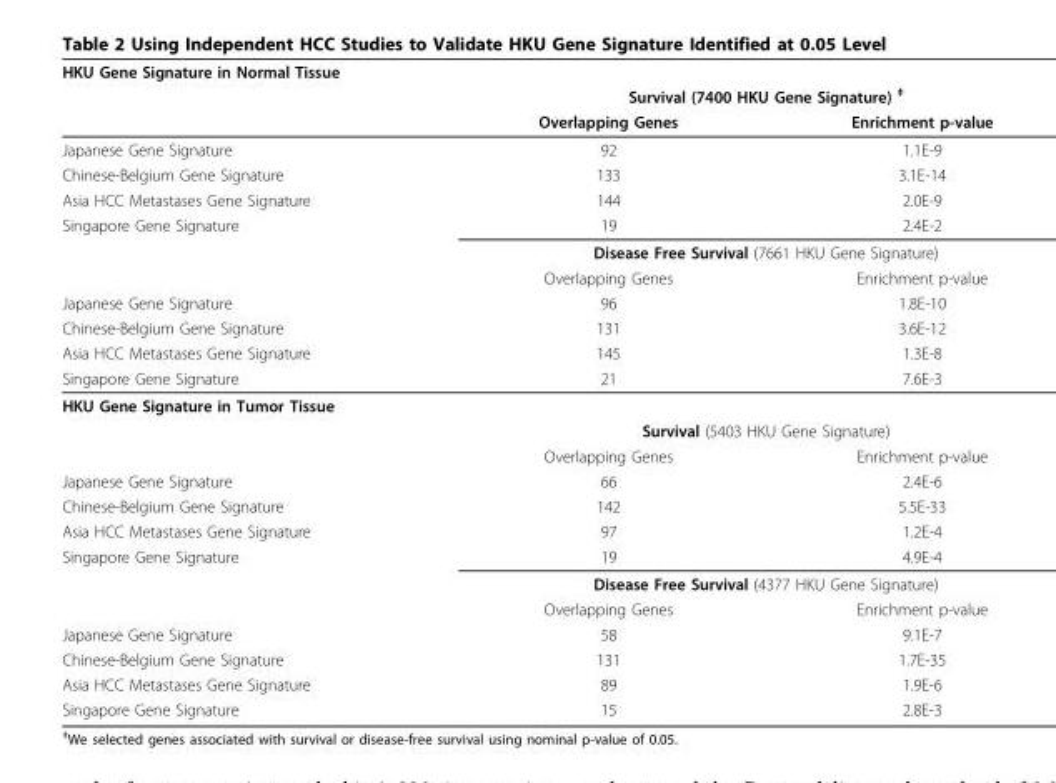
<table><thead><tr><td colspan="3">HKU Gene Signature in Normal Tissue</td></tr><tr><td rowspan="2"></td><td colspan="2">Survival (7400 HKU Gene Signature) <sup>‡</sup></td></tr><tr><td>Overlapping Genes</td><td>Enrichment p-value</td></tr></thead><tbody><tr><td>Japanese Gene Signature</td><td>92</td><td>1.1E-9</td></tr><tr><td>Chinese-Belgium Gene Signature</td><td>133</td><td>3.1E-14</td></tr><tr><td>Asia HCC Metastases Gene Signature</td><td>144</td><td>2.0E-9</td></tr><tr><td rowspan="3">Singapore Gene Signature</td><td>19</td><td>2.4E-2</td></tr><tr><td colspan="2">Disease Free Survival (7661 HKU Gene Signature)</td></tr><tr><td>Overlapping Genes</td><td>Enrichment p-value</td></tr><tr><td>Japanese Gene Signature</td><td>96</td><td>1.8E-10</td></tr><tr><td>Chinese-Belgium Gene Signature</td><td>131</td><td>3.6E-12</td></tr><tr><td>Asia HCC Metastases Gene Signature</td><td>145</td><td>1.3E-8</td></tr><tr><td>Singapore Gene Signature</td><td>21</td><td>7.6E-3</td></tr><tr><td colspan="3">HKU Gene Signature in Tumor Tissue</td></tr><tr><td></td><td colspan="2">Survival (5403 HKU Gene Signature)</td></tr><tr><td></td><td>Overlapping Genes</td><td>Enrichment p-value</td></tr><tr><td>Japanese Gene Signature</td><td>66</td><td>2.4E-6</td></tr><tr><td>Chinese-Belgium Gene Signature</td><td>142</td><td>5.5E-33</td></tr><tr><td>Asia HCC Metastases Gene Signature</td><td>97</td><td>1.2E-4</td></tr><tr><td rowspan="3">Singapore Gene Signature</td><td>19</td><td>4.9E-4</td></tr><tr><td colspan="2">Disease Free Survival (4377 HKU Gene Signature)</td></tr><tr><td>Overlapping Genes</td><td>Enrichment p-value</td></tr><tr><td>Japanese Gene Signature</td><td>58</td><td>9.1E-7</td></tr><tr><td>Chinese-Belgium Gene Signature</td><td>131</td><td>1.7E-35</td></tr><tr><td>Asia HCC Metastases Gene Signature</td><td>89</td><td>1.9E-6</td></tr><tr><td>Singapore Gene Signature</td><td>15</td><td>2.8E-3</td></tr></tbody></table>